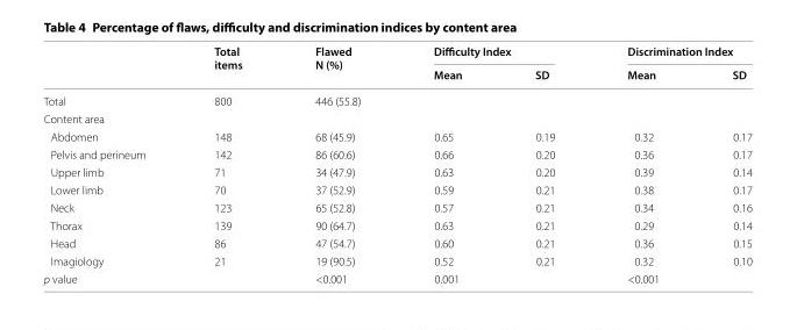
<table><thead><tr><td rowspan="2"></td><td rowspan="2">Total items</td><td rowspan="2">Flawed N (%)</td><td colspan="2">Difficulty Index</td><td colspan="2">Discrimination Index</td></tr><tr><td>Mean</td><td>SD</td><td>Mean</td><td>SD</td></tr></thead><tbody><tr><td>Total</td><td>800</td><td>446 (55.8)</td><td></td><td></td><td></td><td></td></tr><tr><td colspan="7">Content area</td></tr><tr><td>Abdomen</td><td>148</td><td>68 (45.9)</td><td>0.65</td><td>0.19</td><td>0.32</td><td>0.17</td></tr><tr><td>Pelvis and perineum</td><td>142</td><td>86 (60.6)</td><td>0.66</td><td>0.20</td><td>0.36</td><td>0.17</td></tr><tr><td>Upper limb</td><td>71</td><td>34 (47.9)</td><td>0.63</td><td>0.20</td><td>0.39</td><td>0.14</td></tr><tr><td>Lower limb</td><td>70</td><td>37 (52.9)</td><td>0.59</td><td>0.21</td><td>0.38</td><td>0.17</td></tr><tr><td>Neck</td><td>123</td><td>65 (52.8)</td><td>0.57</td><td>0.21</td><td>0.34</td><td>0.16</td></tr><tr><td>Thorax</td><td>139</td><td>90 (64.7)</td><td>0.63</td><td>0.21</td><td>0.29</td><td>0.14</td></tr><tr><td>Head</td><td>86</td><td>47 (54.7)</td><td>0.60</td><td>0.21</td><td>0.36</td><td>0.15</td></tr><tr><td>Imagiology</td><td>21</td><td>19 (90.5)</td><td>0.52</td><td>0.21</td><td>0.32</td><td>0.10</td></tr><tr><td>p value</td><td></td><td>&lt;0.001</td><td>0.001</td><td></td><td>&lt;0.001</td><td></td></tr></tbody></table>